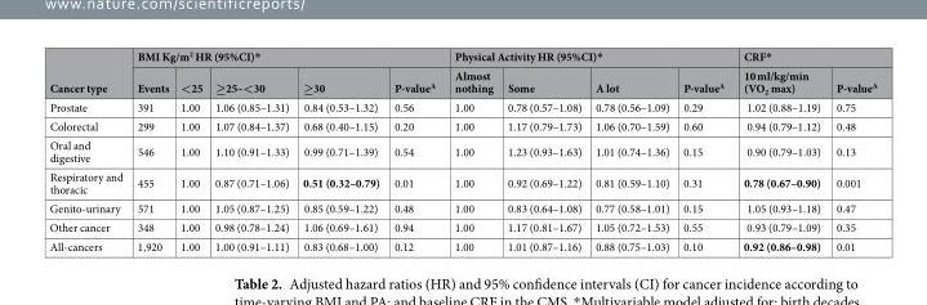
<table><thead><tr><td rowspan="2">Cancer type</td><td colspan="5">BMI Kg/m<sup>2</sup> HR (95%CI)*</td><td colspan="4">Physical Activity HR (95%CI)*</td><td colspan="2">CRF*</td></tr><tr><td>Events</td><td>&lt;25</td><td>≥25–&lt;30</td><td>≥30</td><td>P-value<sup>A</sup></td><td>Almost nothing</td><td>Some</td><td>A lot</td><td>P-value<sup>A</sup></td><td>10 ml/kg/min (VO<sub>2</sub> max)</td><td>P-value<sup>A</sup></td></tr></thead><tbody><tr><td>Prostate</td><td>391</td><td>1.00</td><td>1.06 (0.85–1.31)</td><td>0.84 (0.53–1.32)</td><td>0.56</td><td>1.00</td><td>0.78 (0.57–1.08)</td><td>0.78 (0.56–1.09)</td><td>0.29</td><td>1.02 (0.88–1.19)</td><td>0.75</td></tr><tr><td>Colorectal</td><td>299</td><td>1.00</td><td>1.07 (0.84–1.37)</td><td>0.68 (0.40–1.15)</td><td>0.20</td><td>1.00</td><td>1.17 (0.79–1.73)</td><td>1.06 (0.70–1.59)</td><td>0.60</td><td>0.94 (0.79–1.12)</td><td>0.48</td></tr><tr><td>Oral and digestive</td><td>546</td><td>1.00</td><td>1.10 (0.91–1.33)</td><td>0.99 (0.71–1.39)</td><td>0.54</td><td>1.00</td><td>1.23 (0.93–1.63)</td><td>1.01 (0.74–1.36)</td><td>0.15</td><td>0.90 (0.79–1.03)</td><td>0.13</td></tr><tr><td>Respiratory and thoracic</td><td>455</td><td>1.00</td><td>0.87 (0.71–1.06)</td><td>0.51 (0.32–0.79)</td><td>0.01</td><td>1.00</td><td>0.92 (0.69–1.22)</td><td>0.81 (0.59–1.10)</td><td>0.31</td><td>0.78 (0.67–0.90)</td><td>0.001</td></tr><tr><td>Genito-urinary</td><td>571</td><td>1.00</td><td>1.05 (0.87–1.25)</td><td>0.85 (0.59–1.22)</td><td>0.48</td><td>1.00</td><td>0.83 (0.64–1.08)</td><td>0.77 (0.58–1.01)</td><td>0.15</td><td>1.05 (0.93–1.18)</td><td>0.47</td></tr><tr><td>Other cancer</td><td>348</td><td>1.00</td><td>0.98 (0.78–1.24)</td><td>1.06 (0.69–1.61)</td><td>0.94</td><td>1.00</td><td>1.17 (0.81–1.67)</td><td>1.05 (0.72–1.53)</td><td>0.55</td><td>0.93 (0.79–1.09)</td><td>0.35</td></tr><tr><td>All-cancers</td><td>1,920</td><td>1.00</td><td>1.00 (0.91–1.11)</td><td>0.83 (0.68–1.00)</td><td>0.12</td><td>1.00</td><td>1.01 (0.87–1.16)</td><td>0.88 (0.75–1.03)</td><td>0.10</td><td>0.92 (0.86–0.98)</td><td>0.01</td></tr></tbody></table>